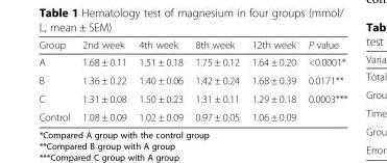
<table><thead><tr><td>Group</td><td>2nd week</td><td>4th week</td><td>8th week</td><td>12th week</td><td>P value</td></tr></thead><tbody><tr><td>A</td><td>1.68 ± 0.11</td><td>1.51 ± 0.18</td><td>1.75 ± 0.12</td><td>1.64 ± 0.20</td><td>&lt;0.0001*</td></tr><tr><td>B</td><td>1.36 ± 0.22</td><td>1.40 ± 0.06</td><td>1.42 ± 0.24</td><td>1.68 ± 0.39</td><td>0.0171**</td></tr><tr><td>C</td><td>1.31 ± 0.08</td><td>1.50 ± 0.23</td><td>1.31 ± 0.11</td><td>1.29 ± 0.18</td><td>0.0003***</td></tr><tr><td>Control</td><td>1.08 ± 0.09</td><td>1.02 ± 0.09</td><td>0.97 ± 0.05</td><td>1.06 ± 0.09</td><td></td></tr></tbody></table>